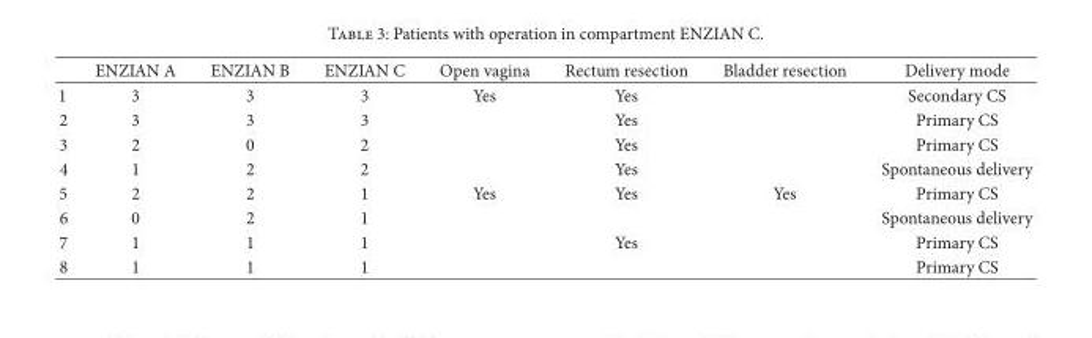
<table><thead><tr><td></td><td>ENZIAN A</td><td>ENZIAN B</td><td>ENZIAN C</td><td>Open vagina</td><td>Rectum resection</td><td>Bladder resection</td><td>Delivery mode</td></tr></thead><tbody><tr><td>1</td><td>3</td><td>3</td><td>3</td><td>Yes</td><td>Yes</td><td></td><td>Secondary CS</td></tr><tr><td>2</td><td>3</td><td>3</td><td>3</td><td></td><td>Yes</td><td></td><td>Primary CS</td></tr><tr><td>3</td><td>2</td><td>0</td><td>2</td><td></td><td>Yes</td><td></td><td>Primary CS</td></tr><tr><td>4</td><td>1</td><td>2</td><td>2</td><td></td><td>Yes</td><td></td><td>Spontaneous delivery</td></tr><tr><td>5</td><td>2</td><td>2</td><td>1</td><td>Yes</td><td>Yes</td><td>Yes</td><td>Primary CS</td></tr><tr><td>6</td><td>0</td><td>2</td><td>1</td><td></td><td></td><td></td><td>Spontaneous delivery</td></tr><tr><td>7</td><td>1</td><td>1</td><td>1</td><td></td><td>Yes</td><td></td><td>Primary CS</td></tr><tr><td>8</td><td>1</td><td>1</td><td>1</td><td></td><td></td><td></td><td>Primary CS</td></tr></tbody></table>